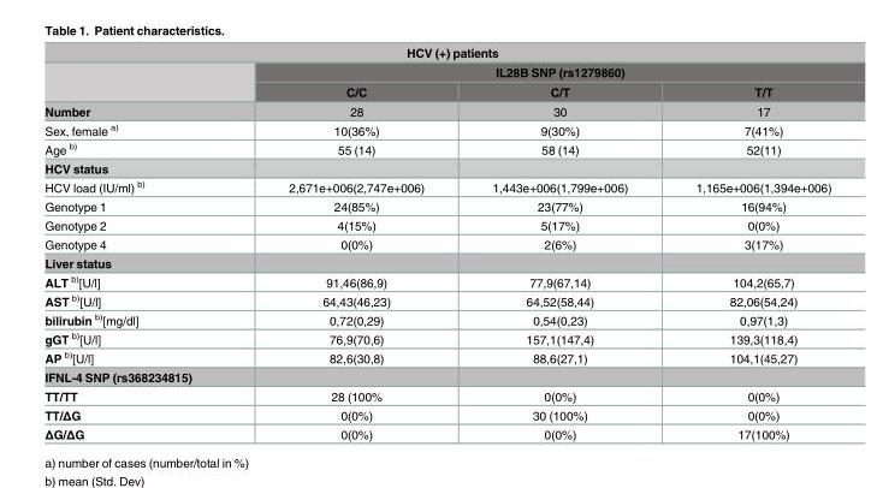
<table><thead><tr><td colspan="4">HCV (+) patients</td></tr><tr><td rowspan="2"></td><td colspan="3">IL28B SNP (rs1279860)</td></tr><tr><td>C/C</td><td>C/T</td><td>T/T</td></tr></thead><tbody><tr><td>Number</td><td>28</td><td>30</td><td>17</td></tr><tr><td>Sex, female <sup>a)</sup></td><td>10(36%)</td><td>9(30%)</td><td>7(41%)</td></tr><tr><td>Age <sup>b)</sup></td><td>55 (14)</td><td>58 (14)</td><td>52(11)</td></tr><tr><td colspan="4">HCV status</td></tr><tr><td>HCV load (IU/ml) <sup>b)</sup></td><td>2,671e+006(2,747e+006)</td><td>1,443e+006(1,799e+006)</td><td>1,165e+006(1,394e+006)</td></tr><tr><td>Genotype 1</td><td>24(85%)</td><td>23(77%)</td><td>16(94%)</td></tr><tr><td>Genotype 2</td><td>4(15%)</td><td>5(17%)</td><td>0(0%)</td></tr><tr><td>Genotype 4</td><td>0(0%)</td><td>2(6%)</td><td>3(17%)</td></tr><tr><td colspan="4">Liver status</td></tr><tr><td>ALT <sup>b)</sup>[U/l]</td><td>91,46(86,9)</td><td>77,9(67,14)</td><td>104,2(65,7)</td></tr><tr><td>AST <sup>b)</sup>[U/l]</td><td>64,43(46,23)</td><td>64,52(58,44)</td><td>82,06(54,24)</td></tr><tr><td>bilirubin <sup>b)</sup>[mg/dl]</td><td>0,72(0,29)</td><td>0,54(0,23)</td><td>0,97(1,3)</td></tr><tr><td>gGT <sup>b)</sup>[U/l]</td><td>76,9(70,6)</td><td>157,1(147,4)</td><td>139,3(118,4)</td></tr><tr><td>AP <sup>b)</sup>[U/l]</td><td>82,6(30,8)</td><td>88,6(27,1)</td><td>104,1(45,27)</td></tr><tr><td colspan="4">IFNL-4 SNP (rs368234815)</td></tr><tr><td>TT/TT</td><td>28 (100%</td><td>0(0%)</td><td>0(0%)</td></tr><tr><td>TT/ΔG</td><td>0(0%)</td><td>30 (100%)</td><td>0(0%)</td></tr><tr><td>ΔG/ΔG</td><td>0(0%)</td><td>0(0%)</td><td>17(100%)</td></tr></tbody></table>